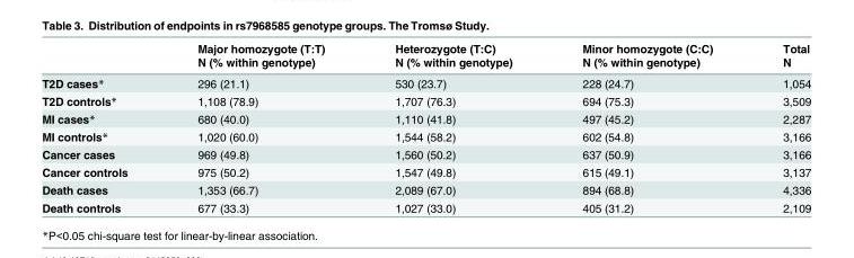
<table><thead><tr><td rowspan="2"></td><td rowspan="2">Major homozygote (T:T) N (% within genotype)</td><td rowspan="2">Heterozygote (T:C) N (% within genotype)</td><td rowspan="2">Minor homozygote (C:C) N (% within genotype)</td><td rowspan="2">Total N</td></tr><tr></tr></thead><tbody><tr><td>T2D cases*</td><td>296 (21.1)</td><td>530 (23.7)</td><td>228 (24.7)</td><td>1,054</td></tr><tr><td>T2D controls*</td><td>1,108 (78.9)</td><td>1,707 (76.3)</td><td>694 (75.3)</td><td>3,509</td></tr><tr><td>MI cases*</td><td>680 (40.0)</td><td>1,110 (41.8)</td><td>497 (45.2)</td><td>2,287</td></tr><tr><td>MI controls*</td><td>1,020 (60.0)</td><td>1,544 (58.2)</td><td>602 (54.8)</td><td>3,166</td></tr><tr><td>Cancer cases</td><td>969 (49.8)</td><td>1,560 (50.2)</td><td>637 (50.9)</td><td>3,166</td></tr><tr><td>Cancer controls</td><td>975 (50.2)</td><td>1,547 (49.8)</td><td>615 (49.1)</td><td>3,137</td></tr><tr><td>Death cases</td><td>1,353 (66.7)</td><td>2,089 (67.0)</td><td>894 (68.8)</td><td>4,336</td></tr><tr><td>Death controls</td><td>677 (33.3)</td><td>1,027 (33.0)</td><td>405 (31.2)</td><td>2,109</td></tr></tbody></table>